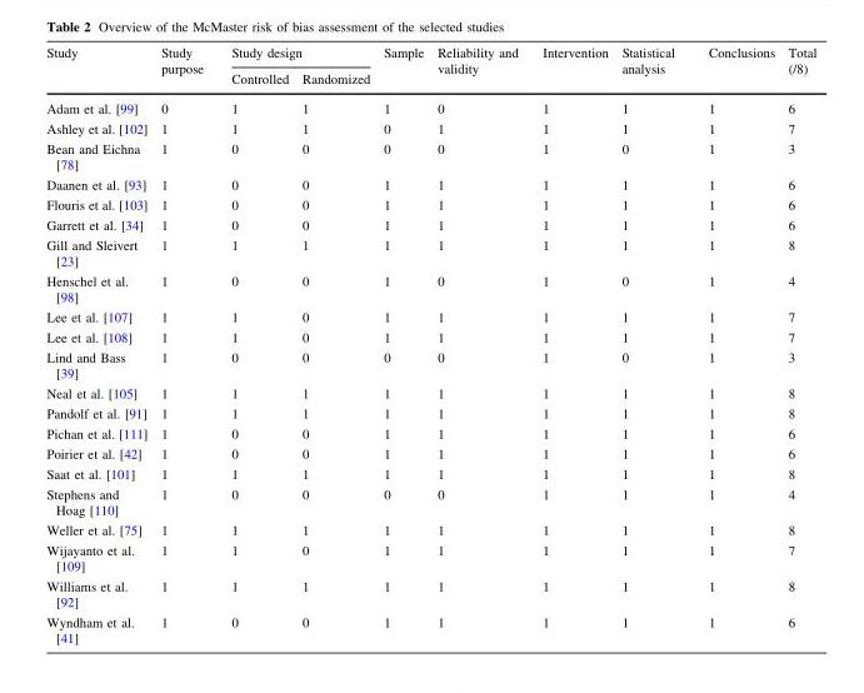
<table><thead><tr><td rowspan="2">Study</td><td rowspan="2">Study purpose</td><td colspan="2">Study design</td><td rowspan="2">Sample</td><td rowspan="2">Reliability and validity</td><td rowspan="2">Intervention</td><td rowspan="2">Statistical analysis</td><td rowspan="2">Conclusions</td><td rowspan="2">Total (/8)</td></tr><tr><td>Controlled</td><td>Randomized</td></tr></thead><tbody><tr><td>Adam et al. [99]</td><td>0</td><td>1</td><td>1</td><td>1</td><td>0</td><td>1</td><td>1</td><td>1</td><td>6</td></tr><tr><td>Ashley et al. [102]</td><td>1</td><td>1</td><td>1</td><td>0</td><td>1</td><td>1</td><td>1</td><td>1</td><td>7</td></tr><tr><td>Bean and Eichna [78]</td><td>1</td><td>0</td><td>0</td><td>0</td><td>0</td><td>1</td><td>0</td><td>1</td><td>3</td></tr><tr><td>Daanen et al. [93]</td><td>1</td><td>0</td><td>0</td><td>1</td><td>1</td><td>1</td><td>1</td><td>1</td><td>6</td></tr><tr><td>Flouris et al. [103]</td><td>1</td><td>0</td><td>0</td><td>1</td><td>1</td><td>1</td><td>1</td><td>1</td><td>6</td></tr><tr><td>Garrett et al. [34]</td><td>1</td><td>0</td><td>0</td><td>1</td><td>1</td><td>1</td><td>1</td><td>1</td><td>6</td></tr><tr><td>Gill and Sleivert [23]</td><td>1</td><td>1</td><td>1</td><td>1</td><td>1</td><td>1</td><td>1</td><td>1</td><td>8</td></tr><tr><td>Henschel et al. [98]</td><td>1</td><td>0</td><td>0</td><td>1</td><td>0</td><td>1</td><td>0</td><td>1</td><td>4</td></tr><tr><td>Lee et al. [107]</td><td>1</td><td>1</td><td>0</td><td>1</td><td>1</td><td>1</td><td>1</td><td>1</td><td>7</td></tr><tr><td>Lee et al. [108]</td><td>1</td><td>1</td><td>0</td><td>1</td><td>1</td><td>1</td><td>1</td><td>1</td><td>7</td></tr><tr><td>Lind and Bass [39]</td><td>1</td><td>0</td><td>0</td><td>0</td><td>0</td><td>1</td><td>0</td><td>1</td><td>3</td></tr><tr><td>Neal et al. [105]</td><td>1</td><td>1</td><td>1</td><td>1</td><td>1</td><td>1</td><td>1</td><td>1</td><td>8</td></tr><tr><td>Pandolf et al. [91]</td><td>1</td><td>1</td><td>1</td><td>1</td><td>1</td><td>1</td><td>1</td><td>1</td><td>8</td></tr><tr><td>Pichan et al. [111]</td><td>1</td><td>0</td><td>0</td><td>1</td><td>1</td><td>1</td><td>1</td><td>1</td><td>6</td></tr><tr><td>Poirier et al. [42]</td><td>1</td><td>0</td><td>0</td><td>1</td><td>1</td><td>1</td><td>1</td><td>1</td><td>6</td></tr><tr><td>Saat et al. [101]</td><td>1</td><td>1</td><td>1</td><td>1</td><td>1</td><td>1</td><td>1</td><td>1</td><td>8</td></tr><tr><td>Stephens and Hoag [110]</td><td>1</td><td>0</td><td>0</td><td>0</td><td>0</td><td>1</td><td>1</td><td>1</td><td>4</td></tr><tr><td>Weller et al. [75]</td><td>1</td><td>1</td><td>1</td><td>1</td><td>1</td><td>1</td><td>1</td><td>1</td><td>8</td></tr><tr><td>Wijayanto et al. [109]</td><td>1</td><td>1</td><td>0</td><td>1</td><td>1</td><td>1</td><td>1</td><td>1</td><td>7</td></tr><tr><td>Williams et al. [92]</td><td>1</td><td>1</td><td>1</td><td>1</td><td>1</td><td>1</td><td>1</td><td>1</td><td>8</td></tr><tr><td>Wyndham et al. [41]</td><td>1</td><td>0</td><td>0</td><td>1</td><td>1</td><td>1</td><td>1</td><td>1</td><td>6</td></tr></tbody></table>